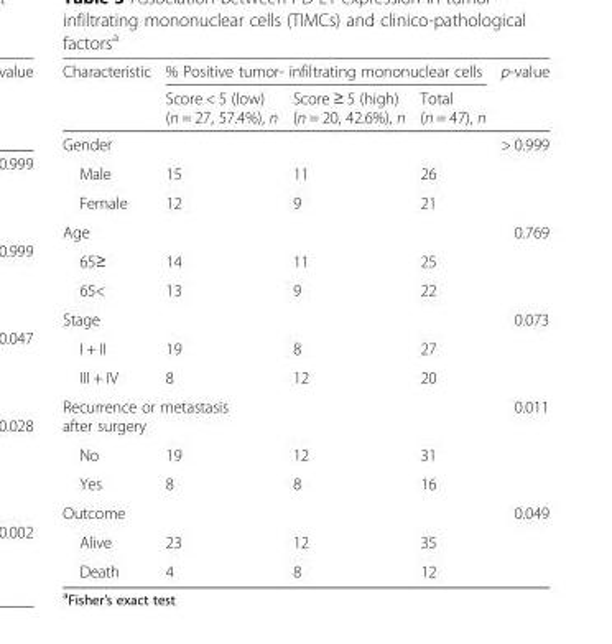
<table><thead><tr><td rowspan="2">Characteristic</td><td colspan="3">% Positive tumor- infiltrating mononuclear cells</td><td rowspan="2">p-value</td></tr><tr><td>Score &lt; 5 (low) (n = 27, 57.4%), n</td><td>Score ≥ 5 (high) (n = 20, 42.6%), n</td><td>Total (n = 47)‚ n</td></tr></thead><tbody><tr><td>Gender</td><td></td><td></td><td></td><td>&gt; 0.999</td></tr><tr><td>Male</td><td>15</td><td>11</td><td>26</td><td></td></tr><tr><td>Female</td><td>12</td><td>9</td><td>21</td><td></td></tr><tr><td>Age</td><td></td><td></td><td></td><td>0.769</td></tr><tr><td>65≥</td><td>14</td><td>11</td><td>25</td><td></td></tr><tr><td>65&lt;</td><td>13</td><td>9</td><td>22</td><td></td></tr><tr><td>Stage</td><td></td><td></td><td></td><td>0.073</td></tr><tr><td>I + II</td><td>19</td><td>8</td><td>27</td><td></td></tr><tr><td>III + IV</td><td>8</td><td>12</td><td>20</td><td></td></tr><tr><td colspan="2">Recurrence or metastasis after surgery</td><td></td><td></td><td>0.011</td></tr><tr><td>No</td><td>19</td><td>12</td><td>31</td><td></td></tr><tr><td>Yes</td><td>8</td><td>8</td><td>16</td><td></td></tr><tr><td>Outcome</td><td></td><td></td><td></td><td>0.049</td></tr><tr><td>Alive</td><td>23</td><td>12</td><td>35</td><td></td></tr><tr><td>Death</td><td>4</td><td>8</td><td>12</td><td></td></tr></tbody></table>